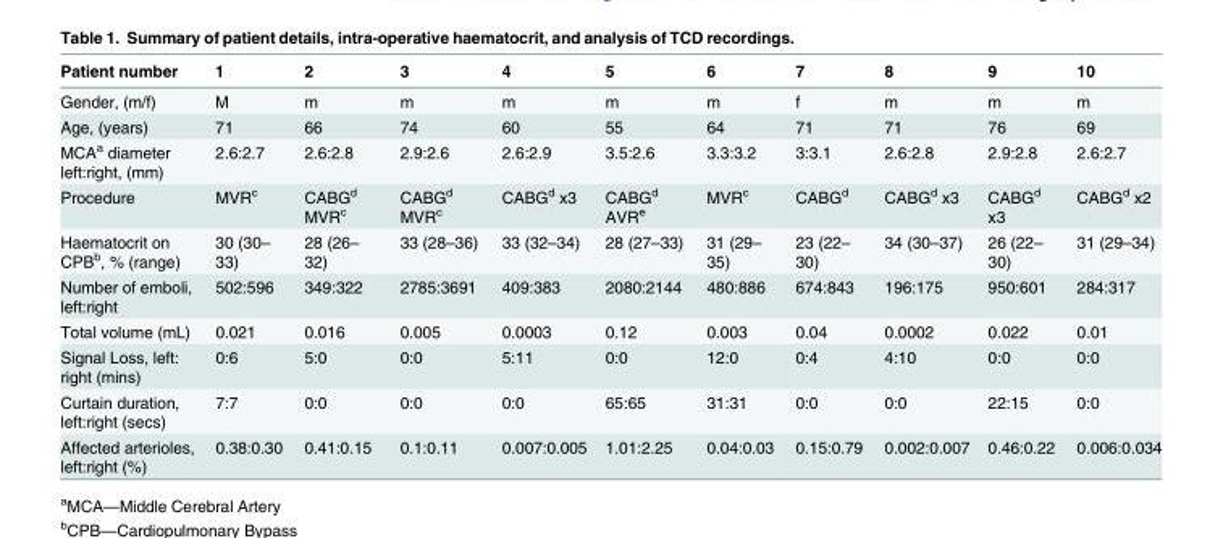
<table><thead><tr><td>Patient number</td><td>1</td><td>2</td><td>3</td><td>4</td><td>5</td><td>6</td><td>7</td><td>8</td><td>9</td><td>10</td></tr></thead><tbody><tr><td>Gender, (m/f)</td><td>M</td><td>m</td><td>m</td><td>m</td><td>m</td><td>m</td><td>f</td><td>m</td><td>m</td><td>m</td></tr><tr><td>Age, (years)</td><td>71</td><td>66</td><td>74</td><td>60</td><td>55</td><td>64</td><td>71</td><td>71</td><td>76</td><td>69</td></tr><tr><td>MCA<sup>a</sup> diameter left:right, (mm)</td><td>2.6:2.7</td><td>2.6:2.8</td><td>2.9:2.6</td><td>2.6:2.9</td><td>3.5:2.6</td><td>3.3:3.2</td><td>3:3.1</td><td>2.6:2.8</td><td>2.9:2.8</td><td>2.6:2.7</td></tr><tr><td>Procedure</td><td>MVR<sup>c</sup></td><td>CABG<sup>d</sup> MVR<sup>c</sup></td><td>CABG<sup>d</sup> MVR<sup>c</sup></td><td>CABG<sup>d</sup> x3</td><td>CABG<sup>d</sup> AVR<sup>e</sup></td><td>MVR<sup>c</sup></td><td>CABG<sup>d</sup></td><td>CABG<sup>d</sup> x3</td><td>CABG<sup>d</sup> x3</td><td>CABG<sup>d</sup> x2</td></tr><tr><td>Haematocrit on CPB<sup>b</sup>, % (range)</td><td>30 (30– 33)</td><td>28 (26– 32)</td><td>33 (28–36)</td><td>33 (32–34)</td><td>28 (27–33)</td><td>31 (29– 35)</td><td>23 (22– 30)</td><td>34 (30–37)</td><td>26 (22– 30)</td><td>31 (29–34)</td></tr><tr><td>Number of emboli, left:right</td><td>502:596</td><td>349:322</td><td>2785:3691</td><td>409:383</td><td>2080:2144</td><td>480:886</td><td>674:843</td><td>196:175</td><td>950:601</td><td>284:317</td></tr><tr><td>Total volume (mL)</td><td>0.021</td><td>0.016</td><td>0.005</td><td>0.0003</td><td>0.12</td><td>0.003</td><td>0.04</td><td>0.0002</td><td>0.022</td><td>0.01</td></tr><tr><td>Signal Loss, left: right (mins)</td><td>0:6</td><td>5:0</td><td>0:0</td><td>5:11</td><td>0:0</td><td>12:0</td><td>0:4</td><td>4:10</td><td>0:0</td><td>0:0</td></tr><tr><td>Curtain duration, left:right (secs)</td><td>7:7</td><td>0:0</td><td>0:0</td><td>0:0</td><td>65:65</td><td>31:31</td><td>0:0</td><td>0:0</td><td>22:15</td><td>0:0</td></tr><tr><td>Affected arterioles, left:right (%)</td><td>0.38:0.30</td><td>0.41:0.15</td><td>0.1:0.11</td><td>0.007:0.005</td><td>1.01:2.25</td><td>0.04:0.03</td><td>0.15:0.79</td><td>0.002:0.007</td><td>0.46:0.22</td><td>0.006:0.034</td></tr></tbody></table>